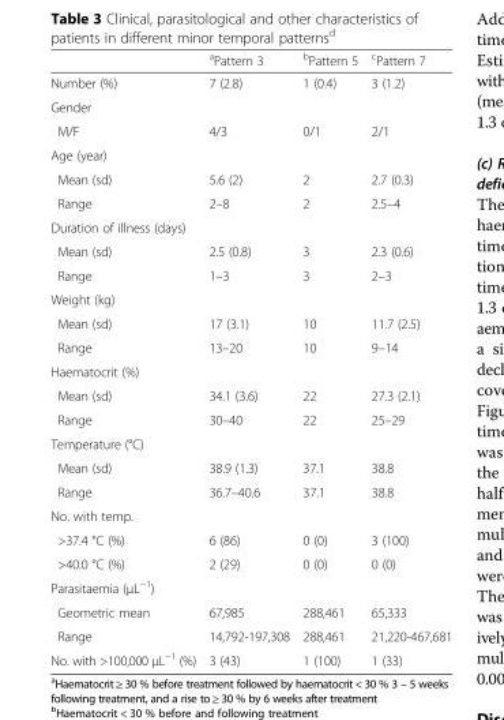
<table><thead><tr><td></td><td><sup>a</sup>Pattern 3</td><td><sup>b</sup>Pattern 5</td><td><sup>c</sup>Pattern 7</td></tr></thead><tbody><tr><td>Number (%)</td><td>7 (2.8)</td><td>1 (0.4)</td><td>3 (1.2)</td></tr><tr><td colspan="4">Gender</td></tr><tr><td>M/F</td><td>4/3</td><td>0/1</td><td>2/1</td></tr><tr><td colspan="4">Age (year)</td></tr><tr><td>Mean (sd)</td><td>5.6 (2)</td><td>2</td><td>2.7 (0.3)</td></tr><tr><td>Range</td><td>2–8</td><td>2</td><td>2.5–4</td></tr><tr><td colspan="4">Duration of illness (days)</td></tr><tr><td>Mean (sd)</td><td>2.5 (0.8)</td><td>3</td><td>2.3 (0.6)</td></tr><tr><td>Range</td><td>1–3</td><td>3</td><td>2–3</td></tr><tr><td colspan="4">Weight (kg)</td></tr><tr><td>Mean (sd)</td><td>17 (3.1)</td><td>10</td><td>11.7 (2.5)</td></tr><tr><td>Range</td><td>13–20</td><td>10</td><td>9–14</td></tr><tr><td colspan="4">Haematocrit (%)</td></tr><tr><td>Mean (sd)</td><td>34.1 (3.6)</td><td>22</td><td>27.3 (2.1)</td></tr><tr><td>Range</td><td>30–40</td><td>22</td><td>25–29</td></tr><tr><td colspan="4">Temperature (°C)</td></tr><tr><td>Mean (sd)</td><td>38.9 (1.3)</td><td>37.1</td><td>38.8</td></tr><tr><td>Range</td><td>36.7–40.6</td><td>37.1</td><td>38.8</td></tr><tr><td colspan="4">No. with temp.</td></tr><tr><td>&gt;37.4 °C (%)</td><td>6 (86)</td><td>0 (0)</td><td>3 (100)</td></tr><tr><td>&gt;40.0 °C (%)</td><td>2 (29)</td><td>0 (0)</td><td>0 (0)</td></tr><tr><td colspan="4">Parasitaemia (μL<sup>−1</sup>)</td></tr><tr><td>Geometric mean</td><td>67,985</td><td>288,461</td><td>65,333</td></tr><tr><td>Range</td><td>14,792-197,308</td><td>288,461</td><td>21,220-467,681</td></tr><tr><td>No. with &gt;100,000 μL<sup>−1</sup> (%)</td><td>3 (43)</td><td>1 (100)</td><td>1 (33)</td></tr></tbody></table>